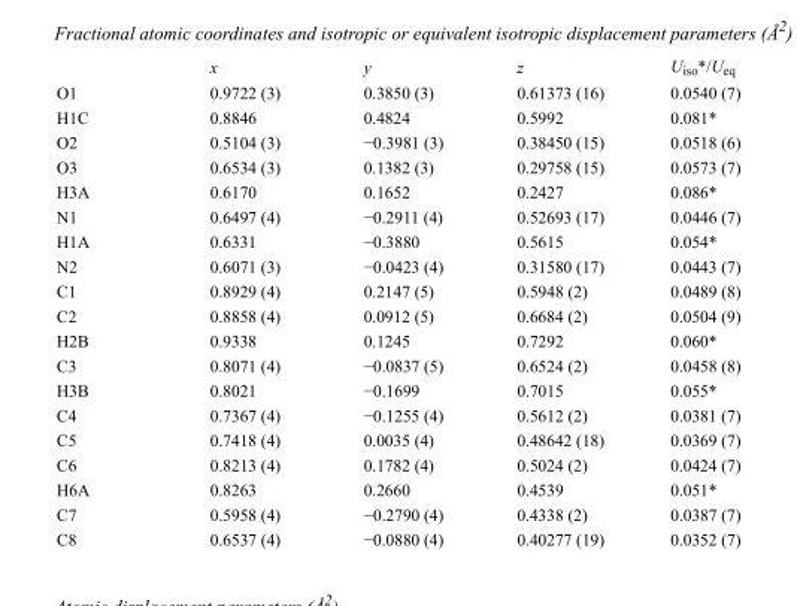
<table><thead><tr><td></td><td>x</td><td>y</td><td>z</td><td>U<sub>iso</sub>*/U<sub>eq</sub></td></tr></thead><tbody><tr><td>O1</td><td>0.9722 (3)</td><td>0.3850 (3)</td><td>0.61373 (16)</td><td>0.0540 (7)</td></tr><tr><td>H1C</td><td>0.8846</td><td>0.4824</td><td>0.5992</td><td>0.081*</td></tr><tr><td>O2</td><td>0.5104 (3)</td><td>−0.3981 (3)</td><td>0.38450 (15)</td><td>0.0518 (6)</td></tr><tr><td>O3</td><td>0.6534 (3)</td><td>0.1382 (3)</td><td>0.29758 (15)</td><td>0.0573 (7)</td></tr><tr><td>H3A</td><td>0.6170</td><td>0.1652</td><td>0.2427</td><td>0.086*</td></tr><tr><td>N1</td><td>0.6497 (4)</td><td>−0.2911 (4)</td><td>0.52693 (17)</td><td>0.0446 (7)</td></tr><tr><td>H1A</td><td>0.6331</td><td>−0.3880</td><td>0.5615</td><td>0.054*</td></tr><tr><td>N2</td><td>0.6071 (3)</td><td>−0.0423 (4)</td><td>0.31580 (17)</td><td>0.0443 (7)</td></tr><tr><td>C1</td><td>0.8929 (4)</td><td>0.2147 (5)</td><td>0.5948 (2)</td><td>0.0489 (8)</td></tr><tr><td>C2</td><td>0.8858 (4)</td><td>0.0912 (5)</td><td>0.6684 (2)</td><td>0.0504 (9)</td></tr><tr><td>H2B</td><td>0.9338</td><td>0.1245</td><td>0.7292</td><td>0.060*</td></tr><tr><td>C3</td><td>0.8071 (4)</td><td>−0.0837 (5)</td><td>0.6524 (2)</td><td>0.0458 (8)</td></tr><tr><td>H3B</td><td>0.8021</td><td>−0.1699</td><td>0.7015</td><td>0.055*</td></tr><tr><td>C4</td><td>0.7367 (4)</td><td>−0.1255 (4)</td><td>0.5612 (2)</td><td>0.0381 (7)</td></tr><tr><td>C5</td><td>0.7418 (4)</td><td>0.0035 (4)</td><td>0.48642 (18)</td><td>0.0369 (7)</td></tr><tr><td>C6</td><td>0.8213 (4)</td><td>0.1782 (4)</td><td>0.5024 (2)</td><td>0.0424 (7)</td></tr><tr><td>H6A</td><td>0.8263</td><td>0.2660</td><td>0.4539</td><td>0.051*</td></tr><tr><td>C7</td><td>0.5958 (4)</td><td>−0.2790 (4)</td><td>0.4338 (2)</td><td>0.0387 (7)</td></tr><tr><td>C8</td><td>0.6537 (4)</td><td>−0.0880 (4)</td><td>0.40277 (19)</td><td>0.0352 (7)</td></tr></tbody></table>